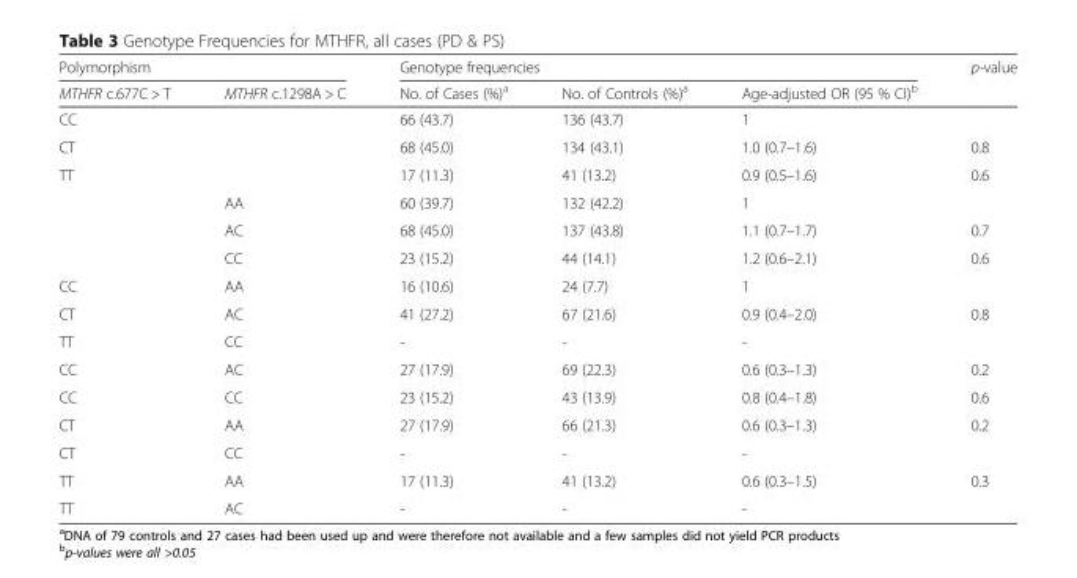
<table><thead><tr><td colspan="2">Polymorphism</td><td colspan="3">Genotype frequencies</td><td rowspan="2">p-value</td></tr><tr><td>MTHFR c.677C &gt; T</td><td>MTHFR c.1298A &gt; C</td><td>No. of Cases (%)<sup>a</sup></td><td>No. of Controls (%)<sup>a</sup></td><td>Age-adjusted OR (95 % CI)<sup>b</sup></td></tr></thead><tbody><tr><td>CC</td><td></td><td>66 (43.7)</td><td>136 (43.7)</td><td>1</td><td></td></tr><tr><td>CT</td><td></td><td>68 (45.0)</td><td>134 (43.1)</td><td>1.0 (0.7–1.6)</td><td>0.8</td></tr><tr><td rowspan="4">TT</td><td></td><td>17 (11.3)</td><td>41 (13.2)</td><td>0.9 (0.5–1.6)</td><td>0.6</td></tr><tr><td>AA</td><td>60 (39.7)</td><td>132 (42.2)</td><td>1</td><td></td></tr><tr><td>AC</td><td>68 (45.0)</td><td>137 (43.8)</td><td>1.1 (0.7–1.7)</td><td>0.7</td></tr><tr><td>CC</td><td>23 (15.2)</td><td>44 (14.1)</td><td>1.2 (0.6–2.1)</td><td>0.6</td></tr><tr><td>CC</td><td>AA</td><td>16 (10.6)</td><td>24 (7.7)</td><td>1</td><td></td></tr><tr><td>CT</td><td>AC</td><td>41 (27.2)</td><td>67 (21.6)</td><td>0.9 (0.4–2.0)</td><td>0.8</td></tr><tr><td>TT</td><td>CC</td><td>-</td><td>-</td><td>-</td><td></td></tr><tr><td>CC</td><td>AC</td><td>27 (17.9)</td><td>69 (22.3)</td><td>0.6 (0.3–1.3)</td><td>0.2</td></tr><tr><td>CC</td><td>CC</td><td>23 (15.2)</td><td>43 (13.9)</td><td>0.8 (0.4–1.8)</td><td>0.6</td></tr><tr><td>CT</td><td>AA</td><td>27 (17.9)</td><td>66 (21.3)</td><td>0.6 (0.3–1.3)</td><td>0.2</td></tr><tr><td>CT</td><td>CC</td><td>-</td><td>-</td><td>-</td><td></td></tr><tr><td>TT</td><td>AA</td><td>17 (11.3)</td><td>41 (13.2)</td><td>0.6 (0.3–1.5)</td><td>0.3</td></tr><tr><td>TT</td><td>AC</td><td>-</td><td>-</td><td>-</td><td></td></tr></tbody></table>